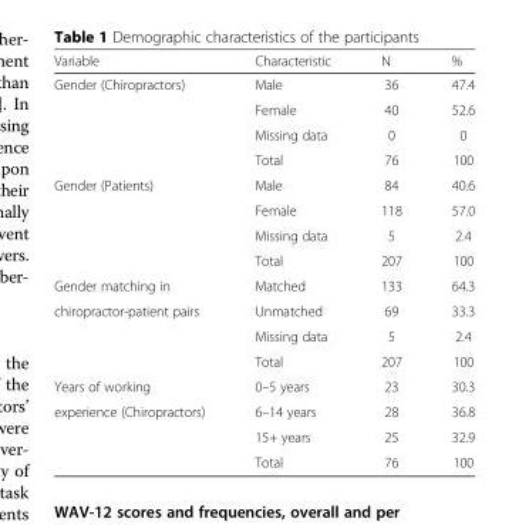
<table><thead><tr><td>Variable</td><td>Characteristic</td><td>N</td><td>%</td></tr></thead><tbody><tr><td rowspan="4">Gender (Chiropractors)</td><td>Male</td><td>36</td><td>47.4</td></tr><tr><td>Female</td><td>40</td><td>52.6</td></tr><tr><td>Missing data</td><td>0</td><td>0</td></tr><tr><td>Total</td><td>76</td><td>100</td></tr><tr><td rowspan="4">Gender (Patients)</td><td>Male</td><td>84</td><td>40.6</td></tr><tr><td>Female</td><td>118</td><td>57.0</td></tr><tr><td>Missing data</td><td>5</td><td>2.4</td></tr><tr><td>Total</td><td>207</td><td>100</td></tr><tr><td>Gender matching in</td><td>Matched</td><td>133</td><td>64.3</td></tr><tr><td rowspan="3">chiropractor-patient pairs</td><td>Unmatched</td><td>69</td><td>33.3</td></tr><tr><td>Missing data</td><td>5</td><td>2.4</td></tr><tr><td>Total</td><td>207</td><td>100</td></tr><tr><td>Years of working</td><td>0–5 years</td><td>23</td><td>30.3</td></tr><tr><td rowspan="3">experience (Chiropractors)</td><td>6–14 years</td><td>28</td><td>36.8</td></tr><tr><td>15+ years</td><td>25</td><td>32.9</td></tr><tr><td>Total</td><td>76</td><td>100</td></tr></tbody></table>